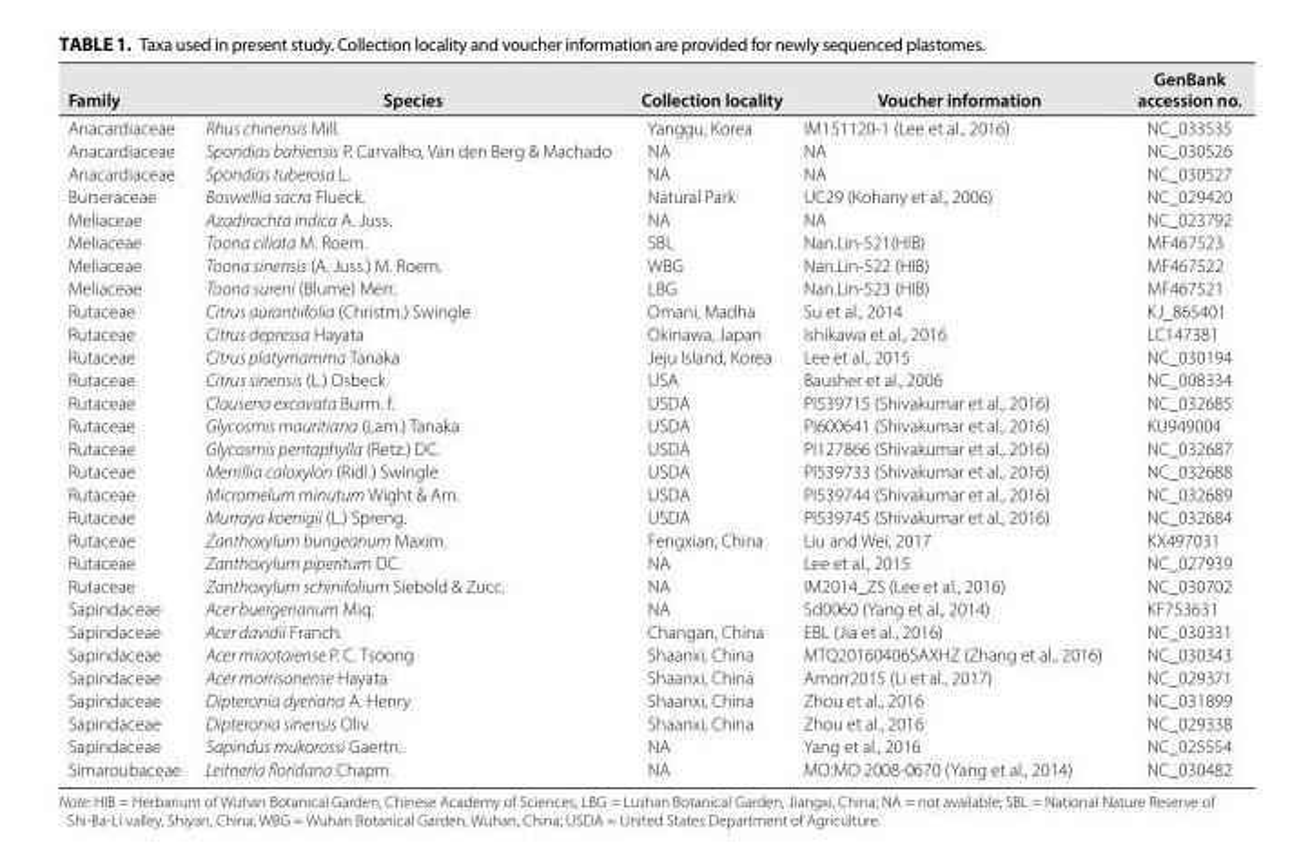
<table><thead><tr><td>Family</td><td>Species</td><td>Collection locality</td><td>Voucher information</td><td>GenBank accession no.</td></tr></thead><tbody><tr><td>Anacardiaceae</td><td>Rhus chinensis Mill.</td><td>Yanggu, Korea</td><td>IM151120- 1 (Lee et al., 2016)</td><td>NC_033535</td></tr><tr><td>Anacardiaceae</td><td>Spondias bahiensis P. Carvalho, Van den Berg &amp; Machado</td><td>NA</td><td>NA</td><td>NC_030526</td></tr><tr><td>Anacardiaceae</td><td>Spondias tuberosa L.</td><td>NA</td><td>NA</td><td>NC_030527</td></tr><tr><td>Burseraceae</td><td>Boswellia sacra Flueck.</td><td>Natural Park</td><td>UC29 (Kohany et al., 2006)</td><td>NC_029420</td></tr><tr><td>Meliaceae</td><td>Azadirachta indica A. Juss.</td><td>NA</td><td>NA</td><td>NC_023792</td></tr><tr><td>Meliaceae</td><td>Toona ciliata M. Roem.</td><td>SBL</td><td>Nan.Lin- 521(HIB)</td><td>MF467523</td></tr><tr><td>Meliaceae</td><td>Toona sinensis (A. Juss.) M. Roem.</td><td>WBG</td><td>Nan.Lin- 522 (HIB)</td><td>MF467522</td></tr><tr><td>Meliaceae</td><td>Toona sureni (Blume) Merr.</td><td>LBG</td><td>Nan.Lin- 523 (HIB)</td><td>MF467521</td></tr><tr><td>Rutaceae</td><td>Citrus aurantiifolia (Christm.) Swingle</td><td>Omani, Madha</td><td>Su et al., 2014</td><td>KJ_865401</td></tr><tr><td>Rutaceae</td><td>Citrus depressa Hayata</td><td>Okinawa, Japan</td><td>Ishikawa et al., 2016</td><td>LC147381</td></tr><tr><td>Rutaceae</td><td>Citrus platymamma Tanaka</td><td>Jeju Island, Korea</td><td>Lee et al., 2015</td><td>NC_030194</td></tr><tr><td>Rutaceae</td><td>Citrus sinensis (L.) Osbeck</td><td>USA</td><td>Bausher et al., 2006</td><td>NC_008334</td></tr><tr><td>Rutaceae</td><td>Clausena excavata Burm. f.</td><td>USDA</td><td>PI539715 (Shivakumar et al., 2016)</td><td>NC_032685</td></tr><tr><td>Rutaceae</td><td>Glycosmis mauritiana (Lam.) Tanaka</td><td>USDA</td><td>PI600641 (Shivakumar et al., 2016)</td><td>KU949004</td></tr><tr><td>Rutaceae</td><td>Glycosmis pentaphylla (Retz.) DC.</td><td>USDA</td><td>PI127866 (Shivakumar et al., 2016)</td><td>NC_032687</td></tr><tr><td>Rutaceae</td><td>Merrillia caloxylon (Ridl.) Swingle</td><td>USDA</td><td>PI539733 (Shivakumar et al., 2016)</td><td>NC_032688</td></tr><tr><td>Rutaceae</td><td>Micromelum minutum Wight &amp; Arn.</td><td>USDA</td><td>PI539744 (Shivakumar et al., 2016)</td><td>NC_032689</td></tr><tr><td>Rutaceae</td><td>Murraya koenigii (L.) Spreng.</td><td>USDA</td><td>PI539745 (Shivakumar et al., 2016)</td><td>NC_032684</td></tr><tr><td>Rutaceae</td><td>Zanthoxylum bungeanum Maxim.</td><td>Fengxian, China</td><td>Liu and Wei, 2017</td><td>KX497031</td></tr><tr><td>Rutaceae</td><td>Zanthoxylum piperitum DC.</td><td>NA</td><td>Lee et al., 2015</td><td>NC_027939</td></tr><tr><td>Rutaceae</td><td>Zanthoxylum schinifolium Siebold &amp; Zucc.</td><td>NA</td><td>IM2014_ZS (Lee et al., 2016)</td><td>NC_030702</td></tr><tr><td>Sapindaceae</td><td>Acer buergerianum Miq.</td><td>NA</td><td>Sd0060 (Yang et al., 2014)</td><td>KF753631</td></tr><tr><td>Sapindaceae</td><td>Acer davidii Franch.</td><td>Changan, China</td><td>EBL (Jia et al., 2016)</td><td>NC_030331</td></tr><tr><td>Sapindaceae</td><td>Acer miaotaiense P. C. Tsoong</td><td>Shaanxi, China</td><td>MTQ20160406SAXHZ (Zhang et al., 2016)</td><td>NC_030343</td></tr><tr><td>Sapindaceae</td><td>Acer morrisonense Hayata</td><td>Shaanxi, China</td><td>Amorr2015 (Li et al., 2017)</td><td>NC_029371</td></tr><tr><td>Sapindaceae</td><td>Dipteronia dyeriana A. Henry</td><td>Shaanxi, China</td><td>Zhou et al., 2016</td><td>NC_031899</td></tr><tr><td>Sapindaceae</td><td>Dipteronia sinensis Oliv.</td><td>Shaanxi, China</td><td>Zhou et al., 2016</td><td>NC_029338</td></tr><tr><td>Sapindaceae</td><td>Sapindus mukorossi Gaertn.</td><td>NA</td><td>Yang et al., 2016</td><td>NC_025554</td></tr><tr><td>Simaroubaceae</td><td>Leitneria floridana Chapm.</td><td>NA</td><td>MO:MO 2008- 0670 (Yang et al., 2014)</td><td>NC_030482</td></tr></tbody></table>